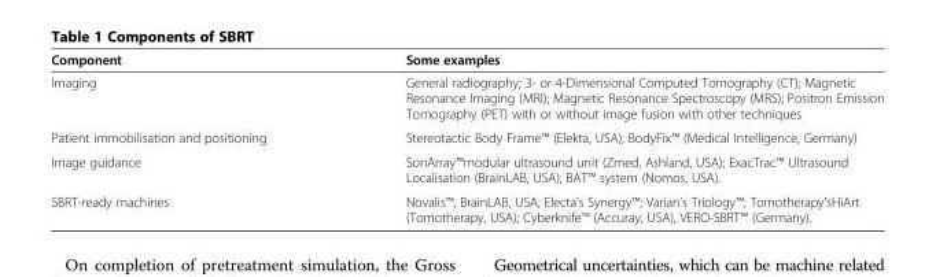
<table><thead><tr><td>Component</td><td>Some examples</td></tr></thead><tbody><tr><td>Imaging</td><td>General radiography; 3- or 4-Dimensional Computed Tomography (CT); Magnetic Resonance Imaging (MRI); Magnetic Resonance Spectroscopy (MRS); Positron Emission Tomography (PET) with or without image fusion with other techniques</td></tr><tr><td>Patient immobilisation and positioning</td><td>Stereotactic Body Frame™ (Elekta, USA); BodyFix™ (Medical Intelligence, Germany)</td></tr><tr><td>Image guidance</td><td>SonArray™modular ultrasound unit (Zmed, Ashland, USA); ExacTrac™ Ultrasound Localisation (BrainLAB, USA); BAT™ system (Nomos, USA).</td></tr><tr><td>SBRT-ready machines</td><td>Novalis™, BrainLAB, USA; Electa’s Synergy™; Varian’s Triology™; Tomotherapy’sHiArt (Tomotherapy, USA); Cyberknife™ (Accuray, USA), VERO-SBRT™ (Germany).</td></tr></tbody></table>